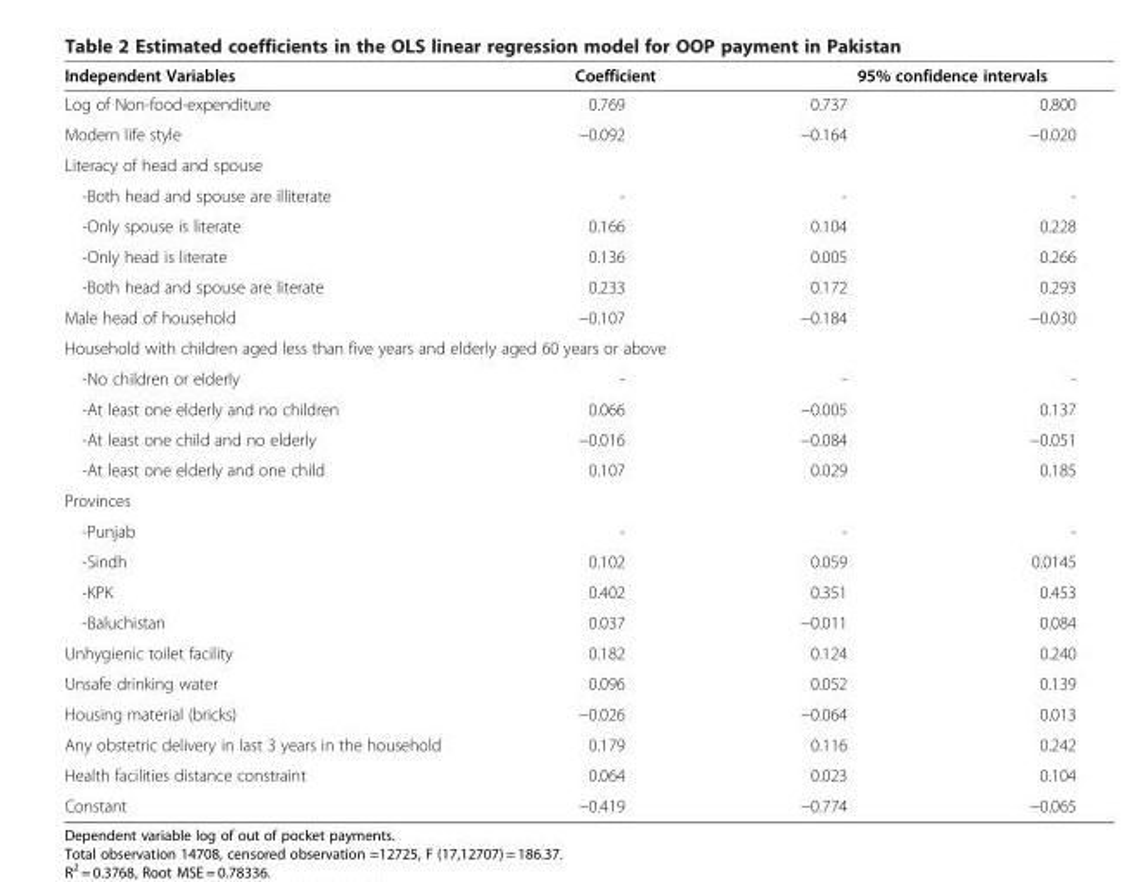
<table><thead><tr><td rowspan="2">Independent Variables Log of Non-food-expenditure</td><td rowspan="2">Coefficient 0.769</td><td colspan="2">95% confidence intervals</td></tr><tr><td>0.737</td><td>0.800</td></tr></thead><tbody><tr><td>Modern life style</td><td>−0.092</td><td>−0.164</td><td>−0.020</td></tr><tr><td colspan="4">Literacy of head and spouse</td></tr><tr><td>-Both head and spouse are illiterate</td><td>-</td><td>-</td><td>-</td></tr><tr><td>-Only spouse is literate</td><td>0.166</td><td>0.104</td><td>0.228</td></tr><tr><td>-Only head is literate</td><td>0.136</td><td>0.005</td><td>0.266</td></tr><tr><td>-Both head and spouse are literate</td><td>0.233</td><td>0.172</td><td>0.293</td></tr><tr><td>Male head of household</td><td>−0.107</td><td>−0.184</td><td>−0.030</td></tr><tr><td colspan="4">Household with children aged less than five years and elderly aged 60 years or above</td></tr><tr><td>-No children or elderly</td><td>-</td><td>-</td><td>-</td></tr><tr><td>-At least one elderly and no children</td><td>0.066</td><td>−0.005</td><td>0.137</td></tr><tr><td>-At least one child and no elderly</td><td>−0.016</td><td>−0.084</td><td>−0.051</td></tr><tr><td>-At least one elderly and one child</td><td>0.107</td><td>0.029</td><td>0.185</td></tr><tr><td colspan="4">Provinces</td></tr><tr><td>-Punjab</td><td>-</td><td>-</td><td>-</td></tr><tr><td>-Sindh</td><td>0.102</td><td>0.059</td><td>0.0145</td></tr><tr><td>-KPK</td><td>0.402</td><td>0.351</td><td>0.453</td></tr><tr><td>-Baluchistan</td><td>0.037</td><td>−0.011</td><td>0.084</td></tr><tr><td>Unhygienic toilet facility</td><td>0.182</td><td>0.124</td><td>0.240</td></tr><tr><td>Unsafe drinking water</td><td>0.096</td><td>0.052</td><td>0.139</td></tr><tr><td>Housing material (bricks)</td><td>−0.026</td><td>−0.064</td><td>0.013</td></tr><tr><td>Any obstetric delivery in last 3 years in the household</td><td>0.179</td><td>0.116</td><td>0.242</td></tr><tr><td>Health facilities distance constraint</td><td>0.064</td><td>0.023</td><td>0.104</td></tr><tr><td>Constant</td><td>−0.419</td><td>−0.774</td><td>−0.065</td></tr></tbody></table>